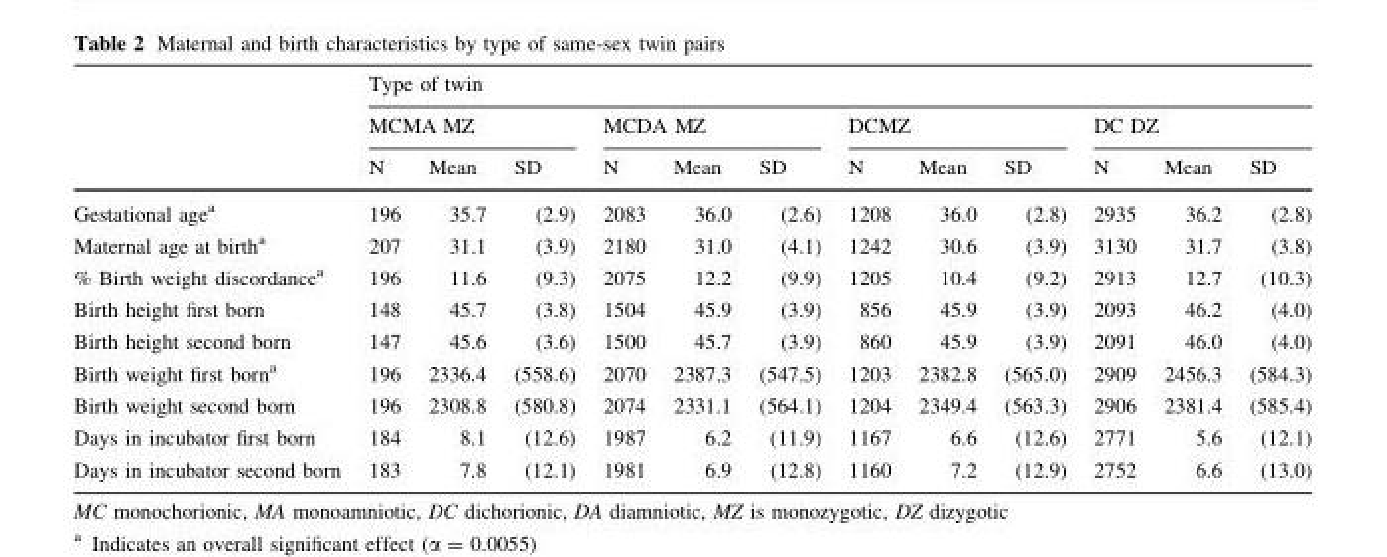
<table><thead><tr><td rowspan="3"></td><td colspan="12">Type of twin</td></tr><tr><td colspan="3">MCMA MZ</td><td colspan="3">MCDA MZ</td><td colspan="3">DCMZ</td><td colspan="3">DC DZ</td></tr><tr><td>N</td><td>Mean</td><td>SD</td><td>N</td><td>Mean</td><td>SD</td><td>N</td><td>Mean</td><td>SD</td><td>N</td><td>Mean</td><td>SD</td></tr></thead><tbody><tr><td>Gestational age<sup>a</sup></td><td>196</td><td>35.7</td><td>(2.9)</td><td>2083</td><td>36.0</td><td>(2.6)</td><td>1208</td><td>36.0</td><td>(2.8)</td><td>2935</td><td>36.2</td><td>(2.8)</td></tr><tr><td>Maternal age at birth<sup>a</sup></td><td>207</td><td>31.1</td><td>(3.9)</td><td>2180</td><td>31.0</td><td>(4.1)</td><td>1242</td><td>30.6</td><td>(3.9)</td><td>3130</td><td>31.7</td><td>(3.8)</td></tr><tr><td>% Birth weight discordance<sup>a</sup></td><td>196</td><td>11.6</td><td>(9.3)</td><td>2075</td><td>12.2</td><td>(9.9)</td><td>1205</td><td>10.4</td><td>(9.2)</td><td>2913</td><td>12.7</td><td>(10.3)</td></tr><tr><td>Birth height first born</td><td>148</td><td>45.7</td><td>(3.8)</td><td>1504</td><td>45.9</td><td>(3.9)</td><td>856</td><td>45.9</td><td>(3.9)</td><td>2093</td><td>46.2</td><td>(4.0)</td></tr><tr><td>Birth height second born</td><td>147</td><td>45.6</td><td>(3.6)</td><td>1500</td><td>45.7</td><td>(3.9)</td><td>860</td><td>45.9</td><td>(3.9)</td><td>2091</td><td>46.0</td><td>(4.0)</td></tr><tr><td>Birth weight first born<sup>a</sup></td><td>196</td><td>2336.4</td><td>(558.6)</td><td>2070</td><td>2387.3</td><td>(547.5)</td><td>1203</td><td>2382.8</td><td>(565.0)</td><td>2909</td><td>2456.3</td><td>(584.3)</td></tr><tr><td>Birth weight second born</td><td>196</td><td>2308.8</td><td>(580.8)</td><td>2074</td><td>2331.1</td><td>(564.1)</td><td>1204</td><td>2349.4</td><td>(563.3)</td><td>2906</td><td>2381.4</td><td>(585.4)</td></tr><tr><td>Days in incubator first born</td><td>184</td><td>8.1</td><td>(12.6)</td><td>1987</td><td>6.2</td><td>(11.9)</td><td>1167</td><td>6.6</td><td>(12.6)</td><td>2771</td><td>5.6</td><td>(12.1)</td></tr><tr><td>Days in incubator second born</td><td>183</td><td>7.8</td><td>(12.1)</td><td>1981</td><td>6.9</td><td>(12.8)</td><td>1160</td><td>7.2</td><td>(12.9)</td><td>2752</td><td>6.6</td><td>(13.0)</td></tr></tbody></table>